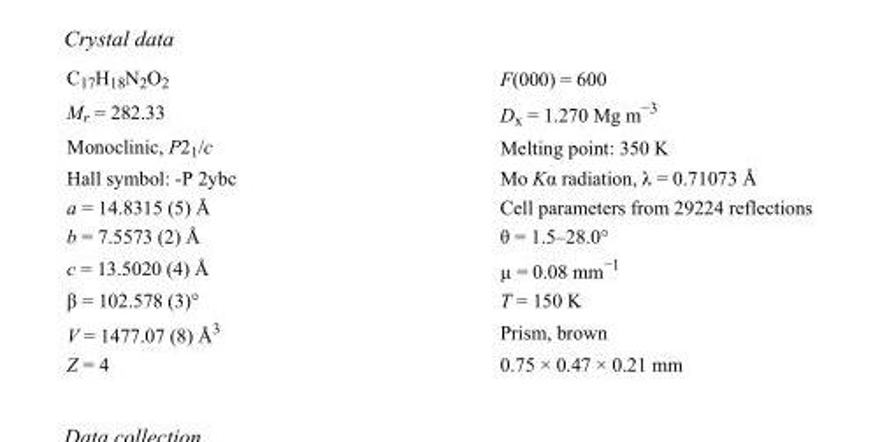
<table><tbody><tr><td>C<sub>17</sub>H<sub>18</sub>N<sub>2</sub>O<sub>2</sub></td><td>F(000) = 600</td></tr><tr><td>M<sub>r</sub> = 282.33</td><td>D<sub>x</sub> = 1.270 Mg m<sup>−3</sup></td></tr><tr><td>Monoclinic, P2<sub>1</sub>/c</td><td>Melting point: 350 K</td></tr><tr><td>Hall symbol: -P 2ybc</td><td>Mo Kα radiation, λ = 0.71073 Å</td></tr><tr><td>a = 14.8315 (5) Å</td><td>Cell parameters from 29224 reflections</td></tr><tr><td>b = 7.5573 (2) Å</td><td>θ = 1.5–28.0°</td></tr><tr><td>c = 13.5020 (4) Å</td><td>µ = 0.08 mm<sup>−1</sup></td></tr><tr><td>β = 102.578 (3)°</td><td>T = 150 K</td></tr><tr><td>V = 1477.07 (8) Å<sup>3</sup></td><td>Prism, brown</td></tr><tr><td>Z = 4</td><td>0.75 × 0.47 × 0.21 mm</td></tr></tbody></table>